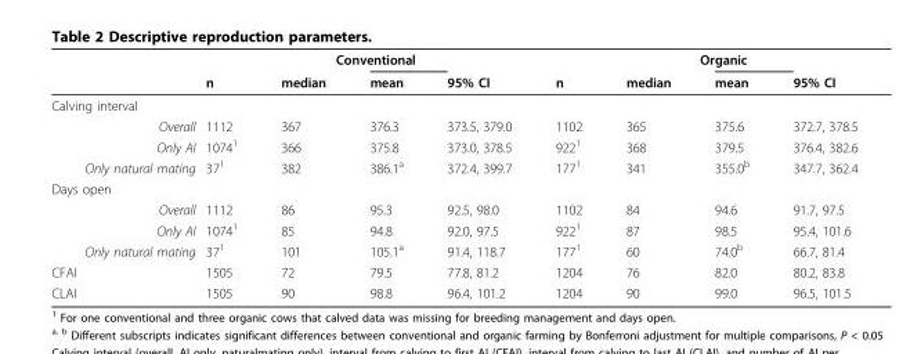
<table><thead><tr><td rowspan="2"></td><td colspan="4">Conventional</td><td colspan="4">Organic</td></tr><tr><td>n</td><td>median</td><td>mean</td><td>95% CI</td><td>n</td><td>median</td><td>mean</td><td>95% CI</td></tr></thead><tbody><tr><td colspan="9">Calving interval</td></tr><tr><td>Overall</td><td>1112</td><td>367</td><td>376.3</td><td>373.5, 379.0</td><td>1102</td><td>365</td><td>375.6</td><td>372.7, 378.5</td></tr><tr><td>Only AI</td><td>1074<sup>1</sup></td><td>366</td><td>375.8</td><td>373.0, 378.5</td><td>922<sup>1</sup></td><td>368</td><td>379.5</td><td>376.4, 382.6</td></tr><tr><td>Only natural mating</td><td>37<sup>1</sup></td><td>382</td><td>386.1<sup>a</sup></td><td>372.4, 399.7</td><td>177<sup>1</sup></td><td>341</td><td>355.0<sup>b</sup></td><td>347.7, 362.4</td></tr><tr><td colspan="9">Days open</td></tr><tr><td>Overall</td><td>1112</td><td>86</td><td>95.3</td><td>92.5, 98.0</td><td>1102</td><td>84</td><td>94.6</td><td>91.7, 97.5</td></tr><tr><td>Only AI</td><td>1074<sup>1</sup></td><td>85</td><td>94.8</td><td>92.0, 97.5</td><td>922<sup>1</sup></td><td>87</td><td>98.5</td><td>95.4, 101.6</td></tr><tr><td>Only natural mating</td><td>37<sup>1</sup></td><td>101</td><td>105.1<sup>a</sup></td><td>91.4, 118.7</td><td>177<sup>1</sup></td><td>60</td><td>74.0<sup>b</sup></td><td>66.7, 81.4</td></tr><tr><td>CFAI</td><td>1505</td><td>72</td><td>79.5</td><td>77.8, 81.2</td><td>1204</td><td>76</td><td>82.0</td><td>80.2, 83.8</td></tr><tr><td>CLAI</td><td>1505</td><td>90</td><td>98.8</td><td>96.4, 101.2</td><td>1204</td><td>90</td><td>99.0</td><td>96.5, 101.5</td></tr></tbody></table>